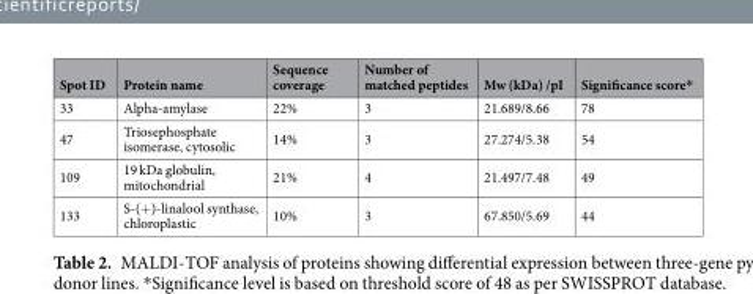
<table><thead><tr><td>Spot ID</td><td>Protein name</td><td>Sequence coverage</td><td>Number of matched peptides</td><td>Mw (kDa) /pI</td><td>Significance score*</td></tr></thead><tbody><tr><td>33</td><td>Alpha-amylase</td><td>22%</td><td>3</td><td>21.689/8.66</td><td>78</td></tr><tr><td>47</td><td>Triosephosphate isomerase, cytosolic</td><td>14%</td><td>3</td><td>27.274/5.38</td><td>54</td></tr><tr><td>109</td><td>19 kDa globulin, mitochondrial</td><td>21%</td><td>4</td><td>21.497/7.48</td><td>49</td></tr><tr><td>133</td><td>S-(+)-linalool synthase, chloroplastic</td><td>10%</td><td>3</td><td>67.850/5.69</td><td>44</td></tr></tbody></table>